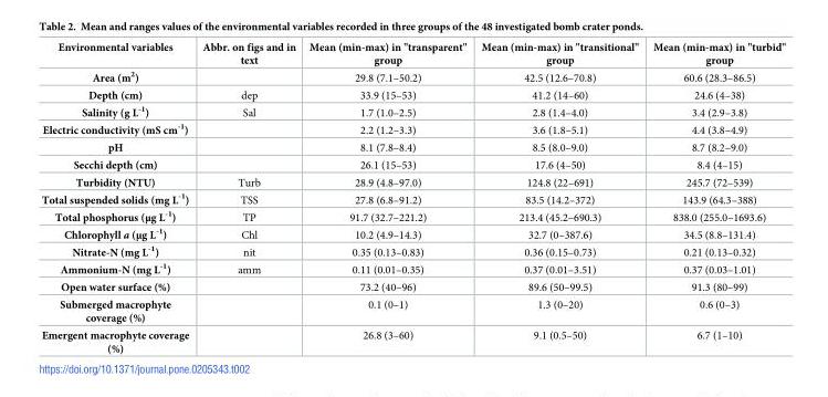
<table><thead><tr><td>Environmental variables</td><td>Abbr. on figs and in text</td><td>Mean (min-max) in &quot;transparent&quot; group</td><td>Mean (min-max) in &quot;transitional&quot; group</td><td>Mean (min-max) in &quot;turbid&quot; group</td></tr></thead><tbody><tr><td>Area (m<sup>2</sup>)</td><td></td><td>29.8 (7.1–50.2)</td><td>42.5 (12.6–70.8)</td><td>60.6 (28.3–86.5)</td></tr><tr><td>Depth (cm)</td><td>dep</td><td>33.9 (15–53)</td><td>41.2 (14–60)</td><td>24.6 (4–38)</td></tr><tr><td>Salinity (g L<sup>-1</sup>)</td><td>Sal</td><td>1.7 (1.0–2.5)</td><td>2.8 (1.4–4.0)</td><td>3.4 (2.9–3.8)</td></tr><tr><td>Electric conductivity (mS cm<sup>-1</sup>)</td><td></td><td>2.2 (1.2–3.3)</td><td>3.6 (1.8–5.1)</td><td>4.4 (3.8–4.9)</td></tr><tr><td>pH</td><td></td><td>8.1 (7.8–8.4)</td><td>8.5 (8.0–9.0)</td><td>8.7 (8.2–9.0)</td></tr><tr><td>Secchi depth (cm)</td><td></td><td>26.1 (15–53)</td><td>17.6 (4–50)</td><td>8.4 (4–15)</td></tr><tr><td>Turbidity (NTU)</td><td>Turb</td><td>28.9 (4.8–97.0)</td><td>124.8 (22–691)</td><td>245.7 (72–539)</td></tr><tr><td>Total suspended solids (mg L<sup>-1</sup>)</td><td>TSS</td><td>27.8 (6.8–91.2)</td><td>83.5 (14.2–372)</td><td>143.9 (64.3–388)</td></tr><tr><td>Total phosphorus (μg L<sup>-1</sup>)</td><td>TP</td><td>91.7 (32.7–221.2)</td><td>213.4 (45.2–690.3)</td><td>838.0 (255.0–1693.6)</td></tr><tr><td>Chlorophyll a (μg L<sup>-1</sup>)</td><td>Chl</td><td>10.2 (4.9–14.3)</td><td>32.7 (0–387.6)</td><td>34.5 (8.8–131.4)</td></tr><tr><td>Nitrate-N (mg L<sup>-1</sup>)</td><td>nit</td><td>0.35 (0.13–0.83)</td><td>0.36 (0.15–0.73)</td><td>0.21 (0.13–0.32)</td></tr><tr><td>Ammonium-N (mg L<sup>-1</sup>)</td><td>amm</td><td>0.11 (0.01–0.35)</td><td>0.37 (0.01–3.51)</td><td>0.37 (0.03–1.01)</td></tr><tr><td>Open water surface (%)</td><td></td><td>73.2 (40–96)</td><td>89.6 (50–99.5)</td><td>91.3 (80–99)</td></tr><tr><td>Submerged macrophyte coverage (%)</td><td></td><td>0.1 (0–1)</td><td>1.3 (0–20)</td><td>0.6 (0–3)</td></tr><tr><td>Emergent macrophyte coverage (%)</td><td></td><td>26.8 (3–60)</td><td>9.1 (0.5–50)</td><td>6.7 (1–10)</td></tr></tbody></table>